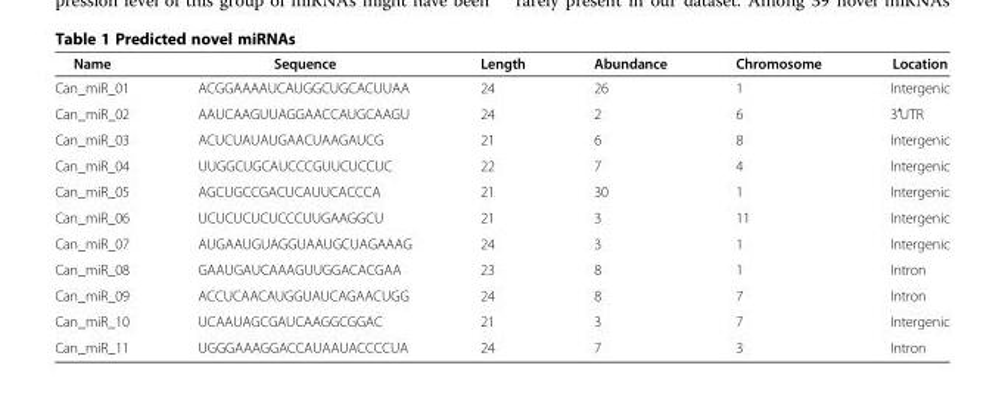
<table><thead><tr><td>Name</td><td>Sequence</td><td>Length</td><td>Abundance</td><td>Chromosome</td><td>Location</td></tr></thead><tbody><tr><td>Can_miR_01</td><td>ACGGAAAAUCAUGGCUGCACUUAA</td><td>24</td><td>26</td><td>1</td><td>Intergenic</td></tr><tr><td>Can_miR_02</td><td>AAUCAAGUUAGGAACCAUGCAAGU</td><td>24</td><td>2</td><td>6</td><td>3′UTR</td></tr><tr><td>Can_miR_03</td><td>ACUCUAUAUGAACUAAGAUCG</td><td>21</td><td>6</td><td>8</td><td>Intergenic</td></tr><tr><td>Can_miR_04</td><td>UUGGCUGCAUCCCGUUCUCCUC</td><td>22</td><td>7</td><td>4</td><td>Intergenic</td></tr><tr><td>Can_miR_05</td><td>AGCUGCCGACUCAUUCACCCA</td><td>21</td><td>30</td><td>1</td><td>Intergenic</td></tr><tr><td>Can_miR_06</td><td>UCUCUCUCUCCCUUGAAGGCU</td><td>21</td><td>3</td><td>11</td><td>Intergenic</td></tr><tr><td>Can_miR_07</td><td>AUGAAUGUAGGUAAUGCUAGAAAG</td><td>24</td><td>3</td><td>1</td><td>Intergenic</td></tr><tr><td>Can_miR_08</td><td>GAAUGAUCAAAGUUGGACACGAA</td><td>23</td><td>8</td><td>1</td><td>Intron</td></tr><tr><td>Can_miR_09</td><td>ACCUCAACAUGGUAUCAGAACUGG</td><td>24</td><td>8</td><td>7</td><td>Intron</td></tr><tr><td>Can_miR_10</td><td>UCAAUAGCGAUCAAGGCGGAC</td><td>21</td><td>3</td><td>7</td><td>Intergenic</td></tr><tr><td>Can_miR_11</td><td>UGGGAAAGGACCAUAAUACCCCUA</td><td>24</td><td>7</td><td>3</td><td>Intron</td></tr></tbody></table>